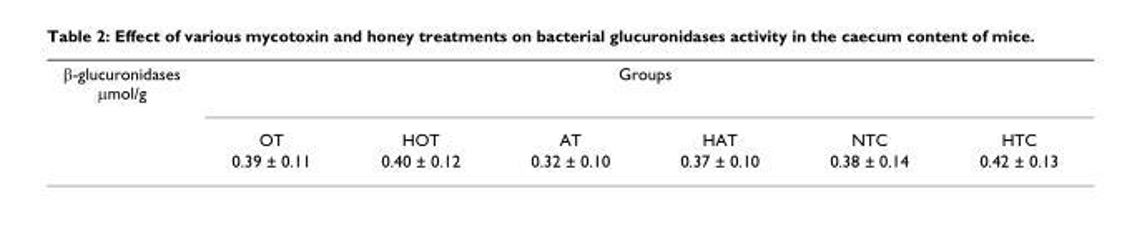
<table><tbody><tr><td rowspan="3">β-glucuronidases µmol/g</td><td colspan="6">Groups</td></tr><tr><td>OT</td><td>HOT</td><td>AT</td><td>HAT</td><td>NTC</td><td>HTC</td></tr><tr><td>0.39 ± 0.11</td><td>0.40 ± 0.12</td><td>0.32 ± 0.10</td><td>0.37 ± 0.10</td><td>0.38 ± 0.14</td><td>0.42 ± 0.13</td></tr></tbody></table>